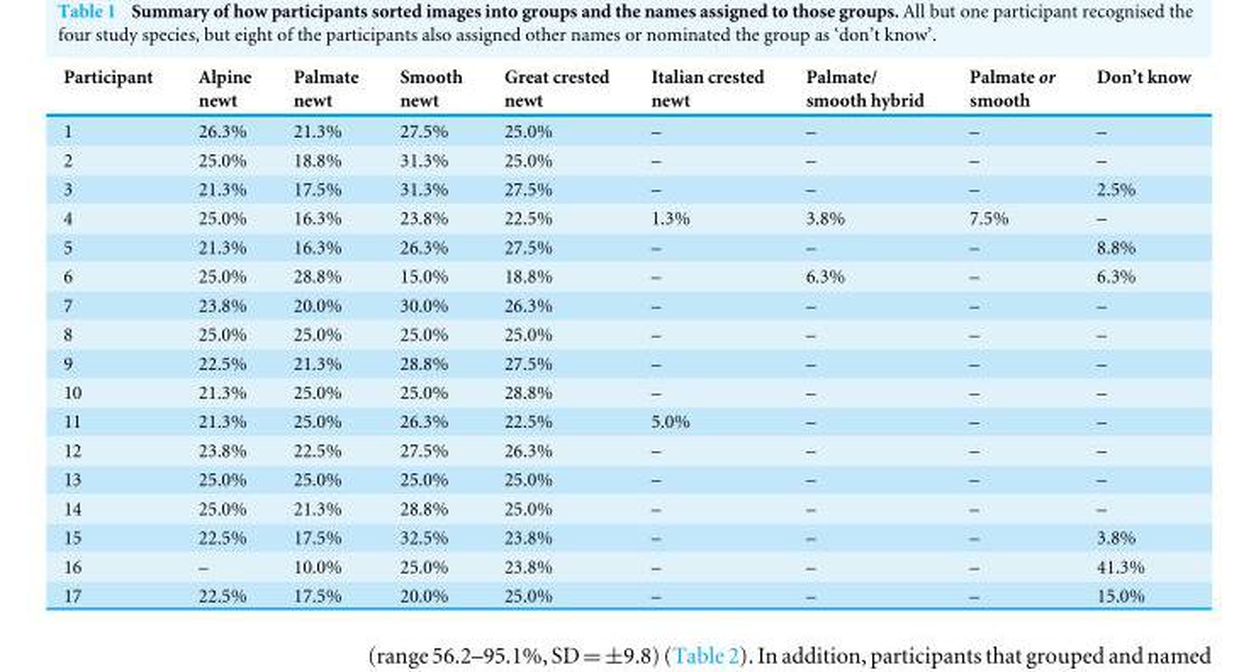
<table><thead><tr><td>Participant</td><td>Alpine newt</td><td>Palmate newt</td><td>Smooth newt</td><td>Great crested newt</td><td>Italian crested newt</td><td>Palmate/ smooth hybrid</td><td>Palmate or smooth</td><td>Don’t know</td></tr></thead><tbody><tr><td>1</td><td>26.3%</td><td>21.3%</td><td>27.5%</td><td>25.0%</td><td>–</td><td>–</td><td>–</td><td>–</td></tr><tr><td>2</td><td>25.0%</td><td>18.8%</td><td>31.3%</td><td>25.0%</td><td>–</td><td>–</td><td>–</td><td>–</td></tr><tr><td>3</td><td>21.3%</td><td>17.5%</td><td>31.3%</td><td>27.5%</td><td>–</td><td>–</td><td>–</td><td>2.5%</td></tr><tr><td>4</td><td>25.0%</td><td>16.3%</td><td>23.8%</td><td>22.5%</td><td>1.3%</td><td>3.8%</td><td>7.5%</td><td>–</td></tr><tr><td>5</td><td>21.3%</td><td>16.3%</td><td>26.3%</td><td>27.5%</td><td>–</td><td>–</td><td>–</td><td>8.8%</td></tr><tr><td>6</td><td>25.0%</td><td>28.8%</td><td>15.0%</td><td>18.8%</td><td>–</td><td>6.3%</td><td>–</td><td>6.3%</td></tr><tr><td>7</td><td>23.8%</td><td>20.0%</td><td>30.0%</td><td>26.3%</td><td>–</td><td>–</td><td>–</td><td>–</td></tr><tr><td>8</td><td>25.0%</td><td>25.0%</td><td>25.0%</td><td>25.0%</td><td>–</td><td>–</td><td>–</td><td>–</td></tr><tr><td>9</td><td>22.5%</td><td>21.3%</td><td>28.8%</td><td>27.5%</td><td>–</td><td>–</td><td>–</td><td>–</td></tr><tr><td>10</td><td>21.3%</td><td>25.0%</td><td>25.0%</td><td>28.8%</td><td>–</td><td>–</td><td>–</td><td>–</td></tr><tr><td>11</td><td>21.3%</td><td>25.0%</td><td>26.3%</td><td>22.5%</td><td>5.0%</td><td>–</td><td>–</td><td>–</td></tr><tr><td>12</td><td>23.8%</td><td>22.5%</td><td>27.5%</td><td>26.3%</td><td>–</td><td>–</td><td>–</td><td>–</td></tr><tr><td>13</td><td>25.0%</td><td>25.0%</td><td>25.0%</td><td>25.0%</td><td>–</td><td>–</td><td>–</td><td>–</td></tr><tr><td>14</td><td>25.0%</td><td>21.3%</td><td>28.8%</td><td>25.0%</td><td>–</td><td>–</td><td>–</td><td>–</td></tr><tr><td>15</td><td>22.5%</td><td>17.5%</td><td>32.5%</td><td>23.8%</td><td>–</td><td>–</td><td>–</td><td>3.8%</td></tr><tr><td>16</td><td>–</td><td>10.0%</td><td>25.0%</td><td>23.8%</td><td>–</td><td>–</td><td>–</td><td>41.3%</td></tr><tr><td>17</td><td>22.5%</td><td>17.5%</td><td>20.0%</td><td>25.0%</td><td>–</td><td>–</td><td>–</td><td>15.0%</td></tr></tbody></table>